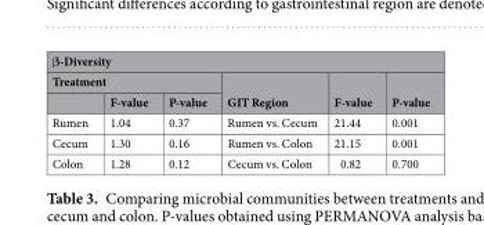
<table><thead><tr><td colspan="6">β-Diversity</td></tr><tr><td colspan="3">Treatment</td><td rowspan="2">GIT Region</td><td rowspan="2">F-value</td><td rowspan="2">P-value</td></tr><tr><td></td><td>F-value</td><td>P-value</td></tr></thead><tbody><tr><td>Rumen</td><td>1.04</td><td>0.37</td><td>Rumen vs. Cecum</td><td>21.44</td><td>0.001</td></tr><tr><td>Cecum</td><td>1.30</td><td>0.16</td><td>Rumen vs. Colon</td><td>21.15</td><td>0.001</td></tr><tr><td>Colon</td><td>1.28</td><td>0.12</td><td>Cecum vs. Colon</td><td>0.82</td><td>0.700</td></tr></tbody></table>